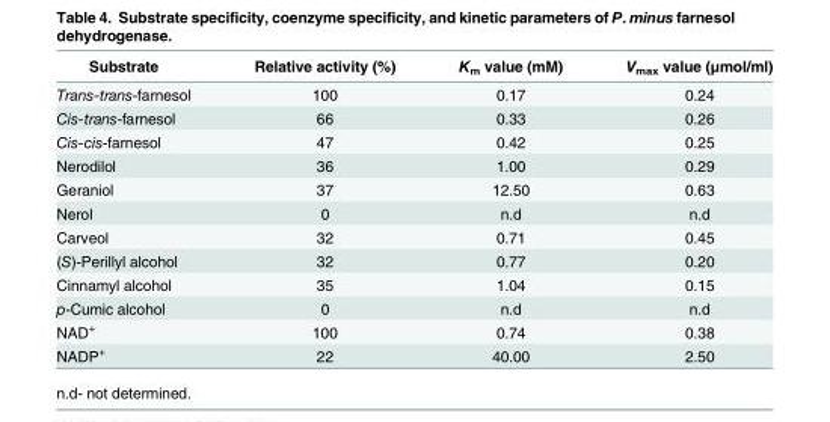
<table><thead><tr><td>Substrate</td><td>Relative activity (%)</td><td>K<sub>m</sub> value (mM)</td><td>V<sub>max</sub> value (μmol/ml)</td></tr></thead><tbody><tr><td>Trans-trans-farnesol</td><td>100</td><td>0.17</td><td>0.24</td></tr><tr><td>Cis-trans-farnesol</td><td>66</td><td>0.33</td><td>0.26</td></tr><tr><td>Cis-cis-farnesol</td><td>47</td><td>0.42</td><td>0.25</td></tr><tr><td>Nerodilol</td><td>36</td><td>1.00</td><td>0.29</td></tr><tr><td>Geraniol</td><td>37</td><td>12.50</td><td>0.63</td></tr><tr><td>Nerol</td><td>0</td><td>n.d</td><td>n.d</td></tr><tr><td>Carveol</td><td>32</td><td>0.71</td><td>0.45</td></tr><tr><td>(S)-Perillyl alcohol</td><td>32</td><td>0.77</td><td>0.20</td></tr><tr><td>Cinnamyl alcohol</td><td>35</td><td>1.04</td><td>0.15</td></tr><tr><td>p-Cumic alcohol</td><td>0</td><td>n.d</td><td>n.d</td></tr><tr><td>NAD<sup>+</sup></td><td>100</td><td>0.74</td><td>0.38</td></tr><tr><td>NADP<sup>+</sup></td><td>22</td><td>40.00</td><td>2.50</td></tr></tbody></table>